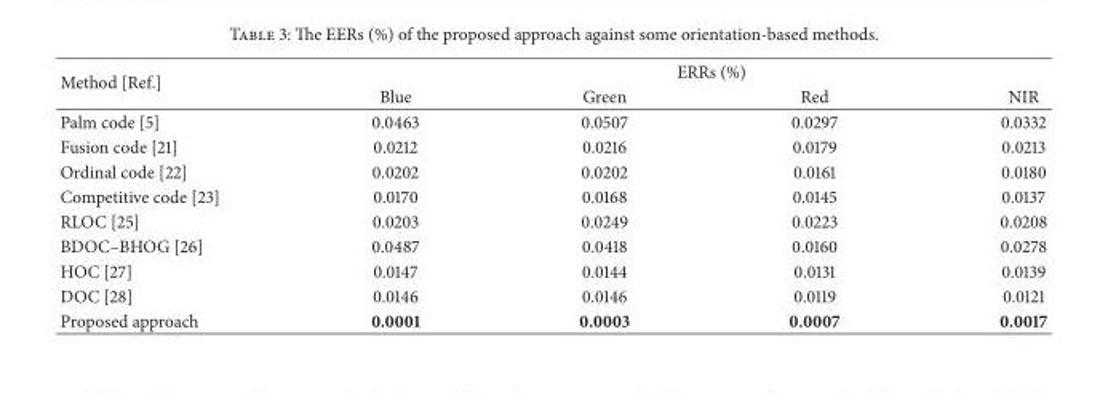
<table><thead><tr><td rowspan="2">Method [Ref.]</td><td colspan="4">ERRs (%)</td></tr><tr><td>Blue</td><td>Green</td><td>Red</td><td>NIR</td></tr></thead><tbody><tr><td>Palm code [5]</td><td>0.0463</td><td>0.0507</td><td>0.0297</td><td>0.0332</td></tr><tr><td>Fusion code [21]</td><td>0.0212</td><td>0.0216</td><td>0.0179</td><td>0.0213</td></tr><tr><td>Ordinal code [22]</td><td>0.0202</td><td>0.0202</td><td>0.0161</td><td>0.0180</td></tr><tr><td>Competitive code [23]</td><td>0.0170</td><td>0.0168</td><td>0.0145</td><td>0.0137</td></tr><tr><td>RLOC [25]</td><td>0.0203</td><td>0.0249</td><td>0.0223</td><td>0.0208</td></tr><tr><td>BDOC–BHOG [26]</td><td>0.0487</td><td>0.0418</td><td>0.0160</td><td>0.0278</td></tr><tr><td>HOC [27]</td><td>0.0147</td><td>0.0144</td><td>0.0131</td><td>0.0139</td></tr><tr><td>DOC [28]</td><td>0.0146</td><td>0.0146</td><td>0.0119</td><td>0.0121</td></tr><tr><td>Proposed approach</td><td>0.0001</td><td>0.0003</td><td>0.0007</td><td>0.0017</td></tr></tbody></table>